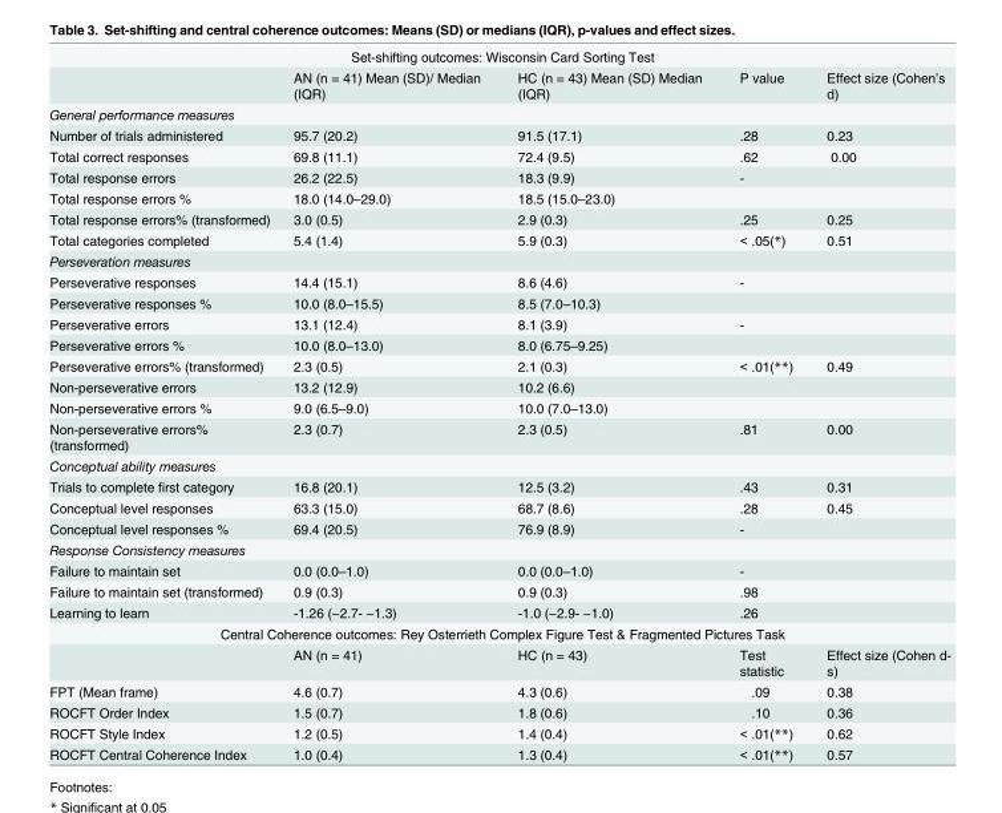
<table><tbody><tr><td colspan="5">Set-shifting outcomes: Wisconsin Card Sorting Test</td></tr><tr><td></td><td>AN (n = 41) Mean (SD)/ Median (IQR)</td><td>HC (n = 43) Mean (SD) Median (IQR)</td><td>P value</td><td>Effect size (Cohen’s d)</td></tr><tr><td colspan="5">General performance measures</td></tr><tr><td>Number of trials administered</td><td>95.7 (20.2)</td><td>91.5 (17.1)</td><td>.28</td><td>0.23</td></tr><tr><td>Total correct responses</td><td>69.8 (11.1)</td><td>72.4 (9.5)</td><td>.62</td><td>0.00</td></tr><tr><td>Total response errors</td><td>26.2 (22.5)</td><td>18.3 (9.9)</td><td>-</td><td></td></tr><tr><td>Total response errors %</td><td>18.0 (14.0–29.0)</td><td>18.5 (15.0–23.0)</td><td></td><td></td></tr><tr><td>Total response errors% (transformed)</td><td>3.0 (0.5)</td><td>2.9 (0.3)</td><td>.25</td><td>0.25</td></tr><tr><td>Total categories completed</td><td>5.4 (1.4)</td><td>5.9 (0.3)</td><td>&lt; .05(*)</td><td>0.51</td></tr><tr><td colspan="5">Perseveration measures</td></tr><tr><td>Perseverative responses</td><td>14.4 (15.1)</td><td>8.6 (4.6)</td><td>-</td><td></td></tr><tr><td>Perseverative responses %</td><td>10.0 (8.0–15.5)</td><td>8.5 (7.0–10.3)</td><td></td><td></td></tr><tr><td>Perseverative errors</td><td>13.1 (12.4)</td><td>8.1 (3.9)</td><td>-</td><td></td></tr><tr><td>Perseverative errors %</td><td>10.0 (8.0–13.0)</td><td>8.0 (6.75–9.25)</td><td></td><td></td></tr><tr><td>Perseverative errors% (transformed)</td><td>2.3 (0.5)</td><td>2.1 (0.3)</td><td>&lt; .01(**)</td><td>0.49</td></tr><tr><td>Non-perseverative errors</td><td>13.2 (12.9)</td><td>10.2 (6.6)</td><td></td><td></td></tr><tr><td>Non-perseverative errors %</td><td>9.0 (6.5–9.0)</td><td>10.0 (7.0–13.0)</td><td></td><td></td></tr><tr><td>Non-perseverative errors% (transformed)</td><td>2.3 (0.7)</td><td>2.3 (0.5)</td><td>.81</td><td>0.00</td></tr><tr><td colspan="5">Conceptual ability measures</td></tr><tr><td>Trials to complete first category</td><td>16.8 (20.1)</td><td>12.5 (3.2)</td><td>.43</td><td>0.31</td></tr><tr><td>Conceptual level responses</td><td>63.3 (15.0)</td><td>68.7 (8.6)</td><td>.28</td><td>0.45</td></tr><tr><td>Conceptual level responses %</td><td>69.4 (20.5)</td><td>76.9 (8.9)</td><td>-</td><td></td></tr><tr><td colspan="5">Response Consistency measures</td></tr><tr><td>Failure to maintain set</td><td>0.0 (0.0–1.0)</td><td>0.0 (0.0–1.0)</td><td>-</td><td></td></tr><tr><td>Failure to maintain set (transformed)</td><td>0.9 (0.3)</td><td>0.9 (0.3)</td><td>.98</td><td></td></tr><tr><td>Learning to learn</td><td>-1.26 (−2.7- −1.3)</td><td>-1.0 (−2.9- −1.0)</td><td>.26</td><td></td></tr><tr><td colspan="5">Central Coherence outcomes: Rey Osterrieth Complex Figure Test &amp; Fragmented Pictures Task</td></tr><tr><td></td><td>AN (n = 41)</td><td>HC (n = 43)</td><td>Test statistic</td><td>Effect size (Cohen d- s)</td></tr><tr><td>FPT (Mean frame)</td><td>4.6 (0.7)</td><td>4.3 (0.6)</td><td>.09</td><td>0.38</td></tr><tr><td>ROCFT Order Index</td><td>1.5 (0.7)</td><td>1.8 (0.6)</td><td>.10</td><td>0.36</td></tr><tr><td>ROCFT Style Index</td><td>1.2 (0.5)</td><td>1.4 (0.4)</td><td>&lt; .01(**)</td><td>0.62</td></tr><tr><td>ROCFT Central Coherence Index</td><td>1.0 (0.4)</td><td>1.3 (0.4)</td><td>&lt; .01(**)</td><td>0.57</td></tr></tbody></table>